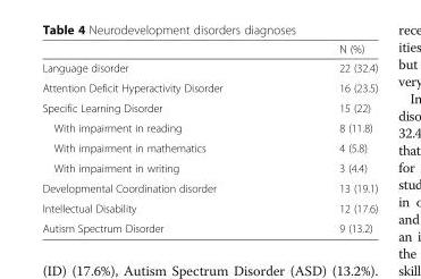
<table><thead><tr><td></td><td>N (%)</td></tr></thead><tbody><tr><td>Language disorder</td><td>22 (32.4)</td></tr><tr><td>Attention Deficit Hyperactivity Disorder</td><td>16 (23.5)</td></tr><tr><td>Specific Learning Disorder</td><td>15 (22)</td></tr><tr><td>With impairment in reading</td><td>8 (11.8)</td></tr><tr><td>With impairment in mathematics</td><td>4 (5.8)</td></tr><tr><td>With impairment in writing</td><td>3 (4.4)</td></tr><tr><td>Developmental Coordination disorder</td><td>13 (19.1)</td></tr><tr><td>Intellectual Disability</td><td>12 (17.6)</td></tr><tr><td>Autism Spectrum Disorder</td><td>9 (13.2)</td></tr></tbody></table>